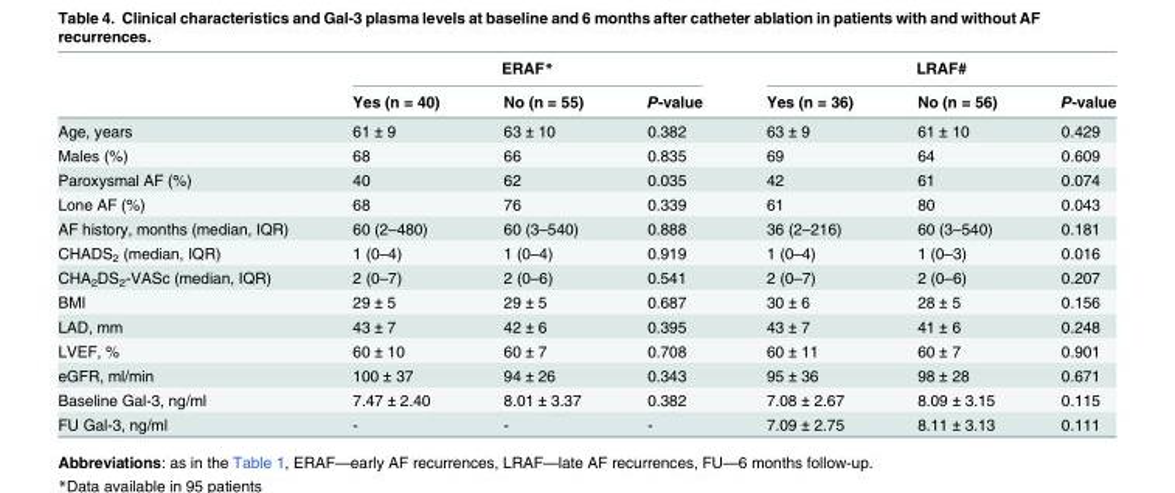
<table><thead><tr><td rowspan="2"></td><td colspan="3">ERAF*</td><td colspan="3">LRAF#</td></tr><tr><td>Yes (n = 40)</td><td>No (n = 55)</td><td>P-value</td><td>Yes (n = 36)</td><td>No (n = 56)</td><td>P-value</td></tr></thead><tbody><tr><td>Age, years</td><td>61 ± 9</td><td>63 ± 10</td><td>0.382</td><td>63 ± 9</td><td>61 ± 10</td><td>0.429</td></tr><tr><td>Males (%)</td><td>68</td><td>66</td><td>0.835</td><td>69</td><td>64</td><td>0.609</td></tr><tr><td>Paroxysmal AF (%)</td><td>40</td><td>62</td><td>0.035</td><td>42</td><td>61</td><td>0.074</td></tr><tr><td>Lone AF (%)</td><td>68</td><td>76</td><td>0.339</td><td>61</td><td>80</td><td>0.043</td></tr><tr><td>AF history, months (median, IQR)</td><td>60 (2–480)</td><td>60 (3–540)</td><td>0.888</td><td>36 (2–216)</td><td>60 (3–540)</td><td>0.181</td></tr><tr><td>CHADS<sub>2</sub> (median, IQR)</td><td>1 (0–4)</td><td>1 (0–4)</td><td>0.919</td><td>1 (0–4)</td><td>1 (0–3)</td><td>0.016</td></tr><tr><td>CHA<sub>2</sub>DS<sub>2</sub>-VASc (median, IQR)</td><td>2 (0–7)</td><td>2 (0–6)</td><td>0.541</td><td>2 (0–7)</td><td>2 (0–6)</td><td>0.207</td></tr><tr><td>BMI</td><td>29 ± 5</td><td>29 ± 5</td><td>0.687</td><td>30 ± 6</td><td>28 ± 5</td><td>0.156</td></tr><tr><td>LAD, mm</td><td>43 ± 7</td><td>42 ± 6</td><td>0.395</td><td>43 ± 7</td><td>41 ± 6</td><td>0.248</td></tr><tr><td>LVEF, %</td><td>60 ± 10</td><td>60 ± 7</td><td>0.708</td><td>60 ± 11</td><td>60 ± 7</td><td>0.901</td></tr><tr><td>eGFR, ml/min</td><td>100 ± 37</td><td>94 ± 26</td><td>0.343</td><td>95 ± 36</td><td>98 ± 28</td><td>0.671</td></tr><tr><td>Baseline Gal-3, ng/ml</td><td>7.47 ± 2.40</td><td>8.01 ± 3.37</td><td>0.382</td><td>7.08 ± 2.67</td><td>8.09 ± 3.15</td><td>0.115</td></tr><tr><td>FU Gal-3, ng/ml</td><td>-</td><td>-</td><td>-</td><td>7.09 ± 2.75</td><td>8.11 ± 3.13</td><td>0.111</td></tr></tbody></table>